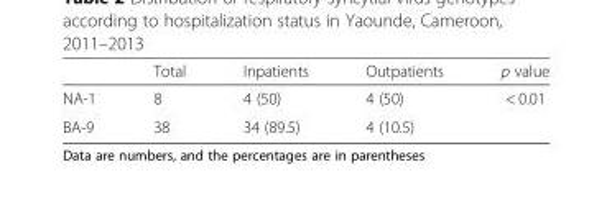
<table><thead><tr><td></td><td>Total</td><td>Inpatients</td><td>Outpatients</td><td>p value</td></tr></thead><tbody><tr><td>NA-1</td><td>8</td><td>4 (50)</td><td>4 (50)</td><td rowspan="2">&lt; 0.01</td></tr><tr><td>BA-9</td><td>38</td><td>34 (89.5)</td><td>4 (10.5)</td></tr></tbody></table>